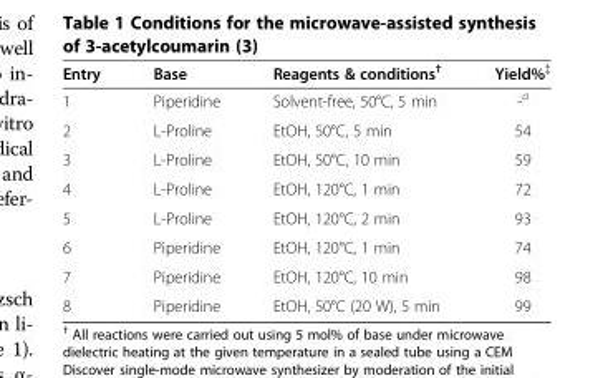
<table><thead><tr><td>Entry</td><td>Base</td><td>Reagents &amp; conditions<sup>†</sup></td><td>Yield%<sup>‡</sup></td></tr></thead><tbody><tr><td>1</td><td>Piperidine</td><td>Solvent-free, 50°C, 5 min</td><td>-<sup>a</sup></td></tr><tr><td>2</td><td>L-Proline</td><td>EtOH, 50°C, 5 min</td><td>54</td></tr><tr><td>3</td><td>L-Proline</td><td>EtOH, 50°C, 10 min</td><td>59</td></tr><tr><td>4</td><td>L-Proline</td><td>EtOH, 120°C, 1 min</td><td>72</td></tr><tr><td>5</td><td>L-Proline</td><td>EtOH, 120°C, 2 min</td><td>93</td></tr><tr><td>6</td><td>Piperidine</td><td>EtOH, 120°C, 1 min</td><td>74</td></tr><tr><td>7</td><td>Piperidine</td><td>EtOH, 120°C, 10 min</td><td>98</td></tr><tr><td>8</td><td>Piperidine</td><td>EtOH, 50°C (20 W), 5 min</td><td>99</td></tr></tbody></table>